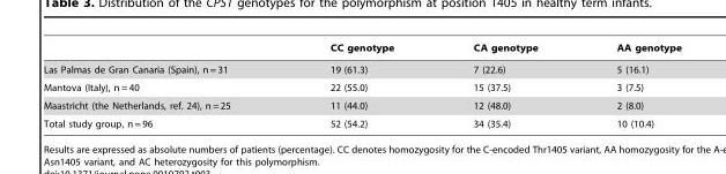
<table><thead><tr><td></td><td>CC genotype</td><td>CA genotype</td><td>AA genotype</td></tr></thead><tbody><tr><td>Las Palmas de Gran Canaria (Spain), n = 31</td><td>19 (61.3)</td><td>7 (22.6)</td><td>5 (16.1)</td></tr><tr><td>Mantova (Italy), n = 40</td><td>22 (55.0)</td><td>15 (37.5)</td><td>3 (7.5)</td></tr><tr><td>Maastricht (the Netherlands, ref. 24), n = 25</td><td>11 (44.0)</td><td>12 (48.0)</td><td>2 (8.0)</td></tr><tr><td>Total study group, n = 96</td><td>52 (54.2)</td><td>34 (35.4)</td><td>10 (10.4)</td></tr></tbody></table>